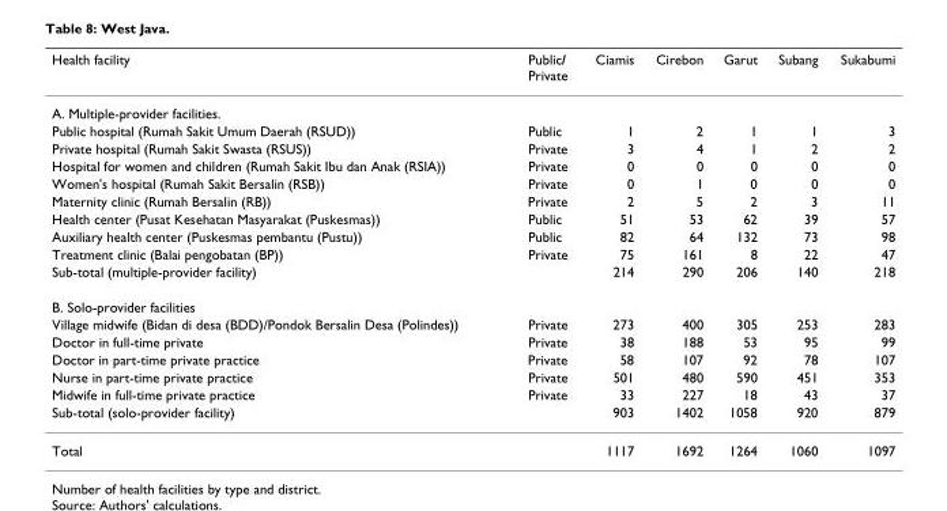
<table><thead><tr><td>Health facility</td><td>Public/ Private</td><td>Ciamis</td><td>Cirebon</td><td>Garut</td><td>Subang</td><td>Sukabumi</td></tr></thead><tbody><tr><td colspan="7">A. Multiple-provider facilities.</td></tr><tr><td>Public hospital (Rumah Sakit Umum Daerah (RSUD))</td><td>Public</td><td>1</td><td>2</td><td>1</td><td>1</td><td>3</td></tr><tr><td>Private hospital (Rumah Sakit Swasta (RSUS))</td><td>Private</td><td>3</td><td>4</td><td>1</td><td>2</td><td>2</td></tr><tr><td>Hospital for women and children (Rumah Sakit Ibu dan Anak (RSIA))</td><td>Private</td><td>0</td><td>0</td><td>0</td><td>0</td><td>0</td></tr><tr><td>Women&#x27;s hospital (Rumah Sakit Bersalin (RSB))</td><td>Private</td><td>0</td><td>1</td><td>0</td><td>0</td><td>0</td></tr><tr><td>Maternity clinic (Rumah Bersalin (RB))</td><td>Private</td><td>2</td><td>5</td><td>2</td><td>3</td><td>11</td></tr><tr><td>Health center (Pusat Kesehatan Masyarakat (Puskesmas))</td><td>Public</td><td>51</td><td>53</td><td>62</td><td>39</td><td>57</td></tr><tr><td>Auxiliary health center (Puskesmas pembantu (Pustu))</td><td>Public</td><td>82</td><td>64</td><td>132</td><td>73</td><td>98</td></tr><tr><td>Treatment clinic (Balai pengobatan (BP))</td><td>Private</td><td>75</td><td>161</td><td>8</td><td>22</td><td>47</td></tr><tr><td>Sub-total (multiple-provider facility)</td><td></td><td>214</td><td>290</td><td>206</td><td>140</td><td>218</td></tr><tr><td colspan="7">B. Solo-provider facilities</td></tr><tr><td>Village midwife (Bidan di desa (BDD)/Pondok Bersalin Desa (Polindes))</td><td>Private</td><td>273</td><td>400</td><td>305</td><td>253</td><td>283</td></tr><tr><td>Doctor in full-time private</td><td>Private</td><td>38</td><td>188</td><td>53</td><td>95</td><td>99</td></tr><tr><td>Doctor in part-time private practice</td><td>Private</td><td>58</td><td>107</td><td>92</td><td>78</td><td>107</td></tr><tr><td>Nurse in part-time private practice</td><td>Private</td><td>501</td><td>480</td><td>590</td><td>451</td><td>353</td></tr><tr><td>Midwife in full-time private practice</td><td>Private</td><td>33</td><td>227</td><td>18</td><td>43</td><td>37</td></tr><tr><td>Sub-total (solo-provider facility)</td><td></td><td>903</td><td>1402</td><td>1058</td><td>920</td><td>879</td></tr><tr><td>Total</td><td></td><td>1117</td><td>1692</td><td>1264</td><td>1060</td><td>1097</td></tr></tbody></table>